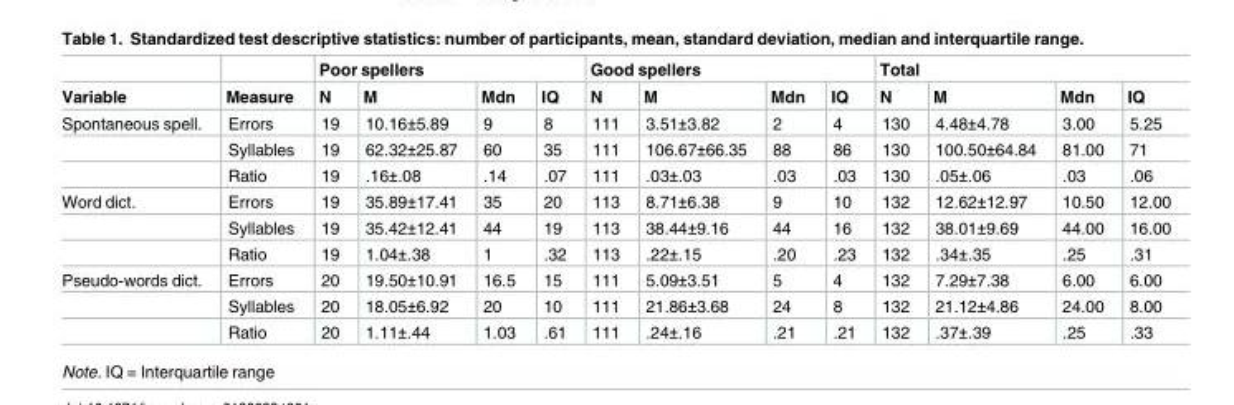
<table><thead><tr><td rowspan="2">Variable</td><td rowspan="2">Measure</td><td colspan="4">Poor spellers</td><td colspan="4">Good spellers</td><td colspan="4">Total</td></tr><tr><td>N</td><td>M</td><td>Mdn</td><td>IQ</td><td>N</td><td>M</td><td>Mdn</td><td>IQ</td><td>N</td><td>M</td><td>Mdn</td><td>IQ</td></tr></thead><tbody><tr><td rowspan="3">Spontaneous spell.</td><td>Errors</td><td>19</td><td>10.16±5.89</td><td>9</td><td>8</td><td>111</td><td>3.51±3.82</td><td>2</td><td>4</td><td>130</td><td>4.48±4.78</td><td>3.00</td><td>5.25</td></tr><tr><td>Syllables</td><td>19</td><td>62.32±25.87</td><td>60</td><td>35</td><td>111</td><td>106.67±66.35</td><td>88</td><td>86</td><td>130</td><td>100.50±64.84</td><td>81.00</td><td>71</td></tr><tr><td>Ratio</td><td>19</td><td>.16±.08</td><td>.14</td><td>.07</td><td>111</td><td>.03±.03</td><td>.03</td><td>.03</td><td>130</td><td>.05±.06</td><td>.03</td><td>.06</td></tr><tr><td rowspan="3">Word dict.</td><td>Errors</td><td>19</td><td>35.89±17.41</td><td>35</td><td>20</td><td>113</td><td>8.71±6.38</td><td>9</td><td>10</td><td>132</td><td>12.62±12.97</td><td>10.50</td><td>12.00</td></tr><tr><td>Syllables</td><td>19</td><td>35.42±12.41</td><td>44</td><td>19</td><td>113</td><td>38.44±9.16</td><td>44</td><td>16</td><td>132</td><td>38.01±9.69</td><td>44.00</td><td>16.00</td></tr><tr><td>Ratio</td><td>19</td><td>1.04±.38</td><td>1</td><td>.32</td><td>113</td><td>.22±.15</td><td>.20</td><td>.23</td><td>132</td><td>.34±.35</td><td>.25</td><td>.31</td></tr><tr><td rowspan="3">Pseudo-words dict.</td><td>Errors</td><td>20</td><td>19.50±10.91</td><td>16.5</td><td>15</td><td>111</td><td>5.09±3.51</td><td>5</td><td>4</td><td>132</td><td>7.29±7.38</td><td>6.00</td><td>6.00</td></tr><tr><td>Syllables</td><td>20</td><td>18.05±6.92</td><td>20</td><td>10</td><td>111</td><td>21.86±3.68</td><td>24</td><td>8</td><td>132</td><td>21.12±4.86</td><td>24.00</td><td>8.00</td></tr><tr><td>Ratio</td><td>20</td><td>1.11±.44</td><td>1.03</td><td>.61</td><td>111</td><td>.24±.16</td><td>.21</td><td>.21</td><td>132</td><td>.37±.39</td><td>.25</td><td>.33</td></tr></tbody></table>